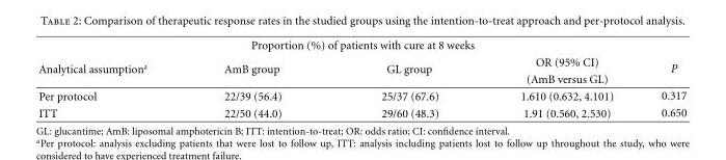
<table><thead><tr><td colspan="5">Proportion (%) of patients with cure at 8 weeks</td></tr><tr><td rowspan="2">Analytical assumption<sup>a</sup></td><td rowspan="2">AmB group</td><td rowspan="2">GL group</td><td rowspan="2">OR (95% CI) (AmB versus GL)</td><td rowspan="2">P</td></tr><tr></tr></thead><tbody><tr><td>Per protocol</td><td>22/39 (56.4)</td><td>25/37 (67.6)</td><td>1.610 (0.632, 4.101)</td><td>0.317</td></tr><tr><td>ITT</td><td>22/50 (44.0)</td><td>29/60 (48.3)</td><td>1.91 (0.560, 2.530)</td><td>0.650</td></tr></tbody></table>